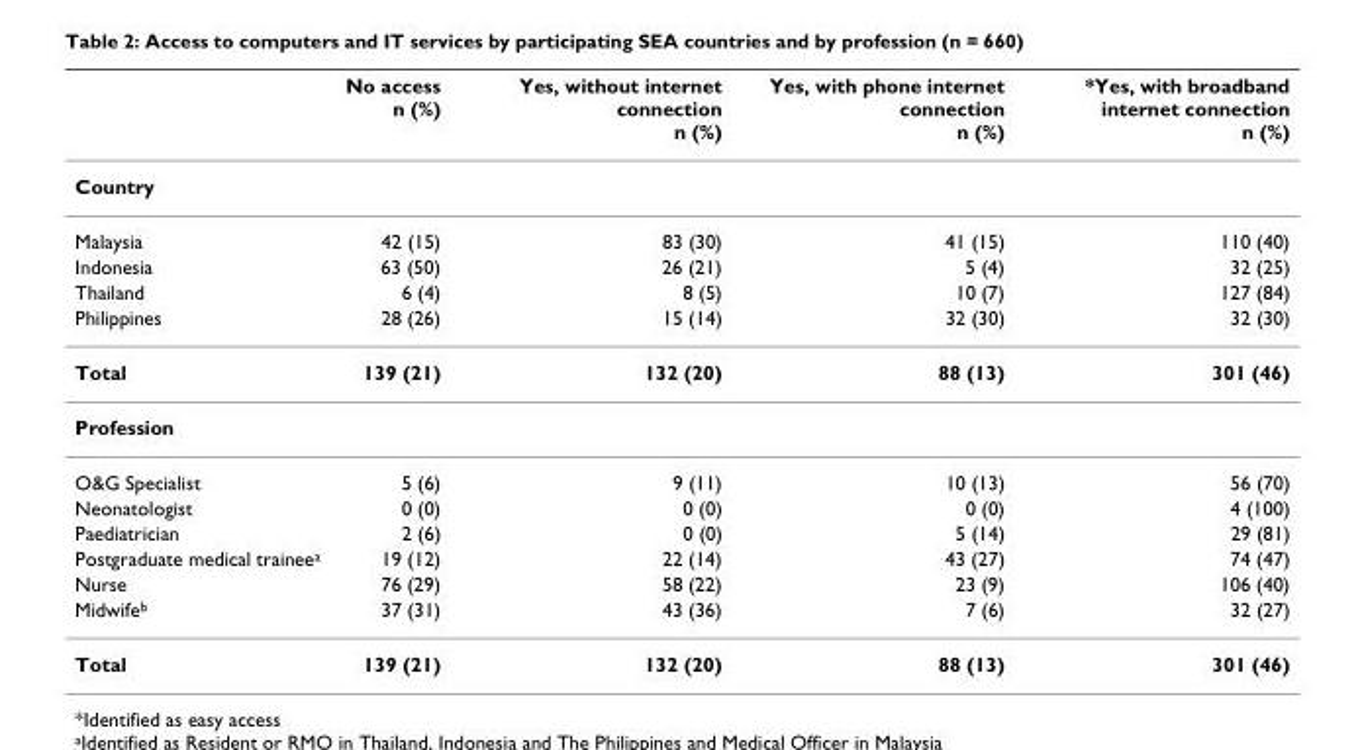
<table><thead><tr><td></td><td>No access n (%)</td><td>Yes, without internet connection n (%)</td><td>Yes, with phone internet connection n (%)</td><td>*Yes, with broadband internet connection n (%)</td></tr></thead><tbody><tr><td colspan="5">Country</td></tr><tr><td>Malaysia</td><td>42 (15)</td><td>83 (30)</td><td>41 (15)</td><td>110 (40)</td></tr><tr><td>Indonesia</td><td>63 (50)</td><td>26 (21)</td><td>5 (4)</td><td>32 (25)</td></tr><tr><td>Thailand</td><td>6 (4)</td><td>8 (5)</td><td>10 (7)</td><td>127 (84)</td></tr><tr><td>Philippines</td><td>28 (26)</td><td>15 (14)</td><td>32 (30)</td><td>32 (30)</td></tr><tr><td>Total</td><td>139 (21)</td><td>132 (20)</td><td>88 (13)</td><td>301 (46)</td></tr><tr><td colspan="5">Profession</td></tr><tr><td>O&amp;G Specialist</td><td>5 (6)</td><td>9 (11)</td><td>10 (13)</td><td>56 (70)</td></tr><tr><td>Neonatologist</td><td>0 (0)</td><td>0 (0)</td><td>0 (0)</td><td>4 (100)</td></tr><tr><td>Paediatrician</td><td>2 (6)</td><td>0 (0)</td><td>5 (14)</td><td>29 (81)</td></tr><tr><td>Postgraduate medical trainee<sup>a</sup></td><td>19 (12)</td><td>22 (14)</td><td>43 (27)</td><td>74 (47)</td></tr><tr><td>Nurse</td><td>76 (29)</td><td>58 (22)</td><td>23 (9)</td><td>106 (40)</td></tr><tr><td>Midwife<sup>b</sup></td><td>37 (31)</td><td>43 (36)</td><td>7 (6)</td><td>32 (27)</td></tr><tr><td>Total</td><td>139 (21)</td><td>132 (20)</td><td>88 (13)</td><td>301 (46)</td></tr></tbody></table>